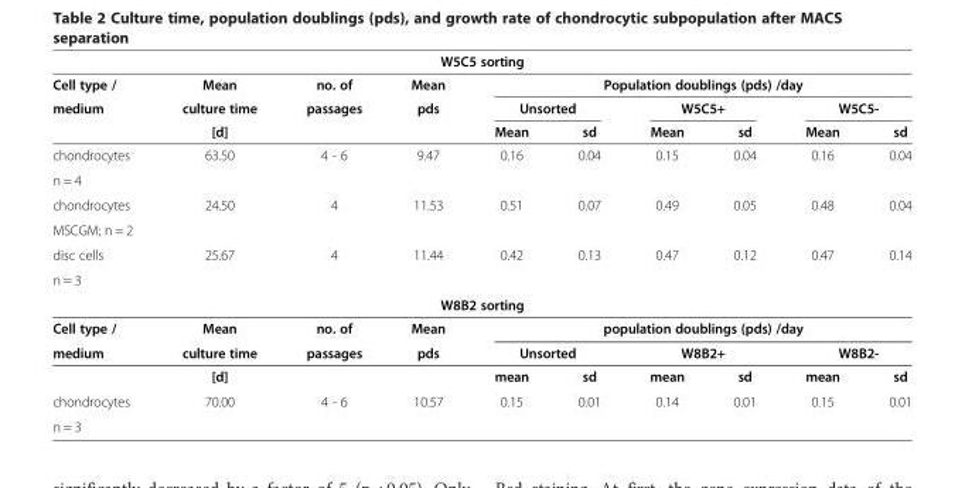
<table><thead><tr><td colspan="10">W5C5 sorting</td></tr><tr><td rowspan="3">Cell type / medium</td><td rowspan="3">Mean culture time [d]</td><td rowspan="3">no. of passages</td><td rowspan="3">Mean pds</td><td colspan="6">Population doublings (pds) /day</td></tr><tr><td colspan="2">Unsorted</td><td colspan="2">W5C5+</td><td colspan="2">W5C5-</td></tr><tr><td>Mean</td><td>sd</td><td>Mean</td><td>sd</td><td>Mean</td><td>sd</td></tr></thead><tbody><tr><td>chondrocytes</td><td>63.50</td><td>4 - 6</td><td>9.47</td><td>0.16</td><td>0.04</td><td>0.15</td><td>0.04</td><td>0.16</td><td>0.04</td></tr><tr><td colspan="10">n = 4</td></tr><tr><td>chondrocytes</td><td>24.50</td><td>4</td><td>11.53</td><td>0.51</td><td>0.07</td><td>0.49</td><td>0.05</td><td>0.48</td><td>0.04</td></tr><tr><td colspan="10">MSCGM; n = 2</td></tr><tr><td>disc cells</td><td>25.67</td><td>4</td><td>11.44</td><td>0.42</td><td>0.13</td><td>0.47</td><td>0.12</td><td>0.47</td><td>0.14</td></tr><tr><td colspan="10">n = 3</td></tr><tr><td colspan="10">W8B2 sorting</td></tr><tr><td>Cell type /</td><td>Mean</td><td>no. of</td><td>Mean</td><td colspan="6">population doublings (pds) /day</td></tr><tr><td rowspan="2">medium</td><td>culture time</td><td>passages</td><td>pds</td><td colspan="2">Unsorted</td><td colspan="2">W8B2+</td><td colspan="2">W8B2-</td></tr><tr><td>[d]</td><td></td><td></td><td>mean</td><td>sd</td><td>mean</td><td>sd</td><td>mean</td><td>sd</td></tr><tr><td>chondrocytes</td><td>70.00</td><td>4 - 6</td><td>10.57</td><td>0.15</td><td>0.01</td><td>0.14</td><td>0.01</td><td>0.15</td><td>0.01</td></tr><tr><td>n = 3</td><td></td><td></td><td></td><td></td><td></td><td></td><td></td><td></td><td></td></tr></tbody></table>